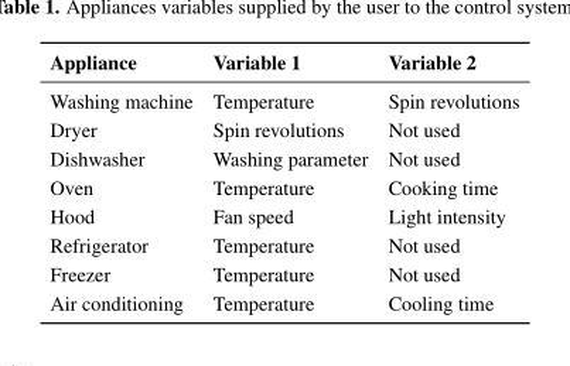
<table><thead><tr><td>Appliance</td><td>Variable 1</td><td>Variable 2</td></tr></thead><tbody><tr><td>Washing machine</td><td>Temperature</td><td>Spin revolutions</td></tr><tr><td>Dryer</td><td>Spin revolutions</td><td>Not used</td></tr><tr><td>Dishwasher</td><td>Washing parameter</td><td>Not used</td></tr><tr><td>Oven</td><td>Temperature</td><td>Cooking time</td></tr><tr><td>Hood</td><td>Fan speed</td><td>Light intensity</td></tr><tr><td>Refrigerator</td><td>Temperature</td><td>Not used</td></tr><tr><td>Freezer</td><td>Temperature</td><td>Not used</td></tr><tr><td>Air conditioning</td><td>Temperature</td><td>Cooling time</td></tr></tbody></table>